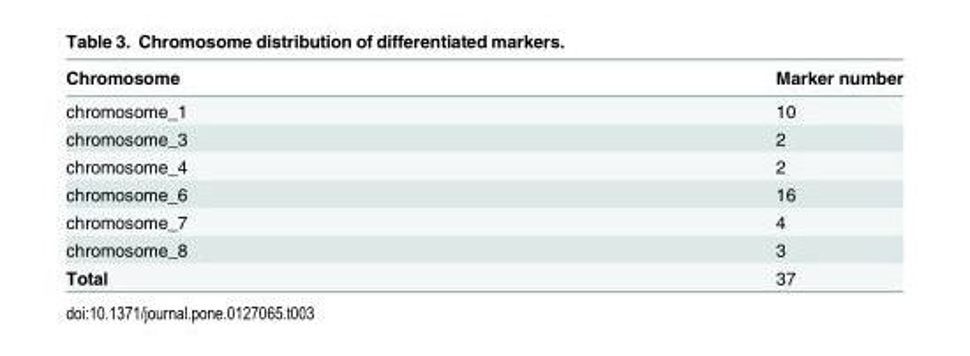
<table><thead><tr><td>Chromosome</td><td>Marker number</td></tr></thead><tbody><tr><td>chromosome_1</td><td>10</td></tr><tr><td>chromosome_3</td><td>2</td></tr><tr><td>chromosome_4</td><td>2</td></tr><tr><td>chromosome_6</td><td>16</td></tr><tr><td>chromosome_7</td><td>4</td></tr><tr><td>chromosome_8</td><td>3</td></tr><tr><td>Total</td><td>37</td></tr></tbody></table>